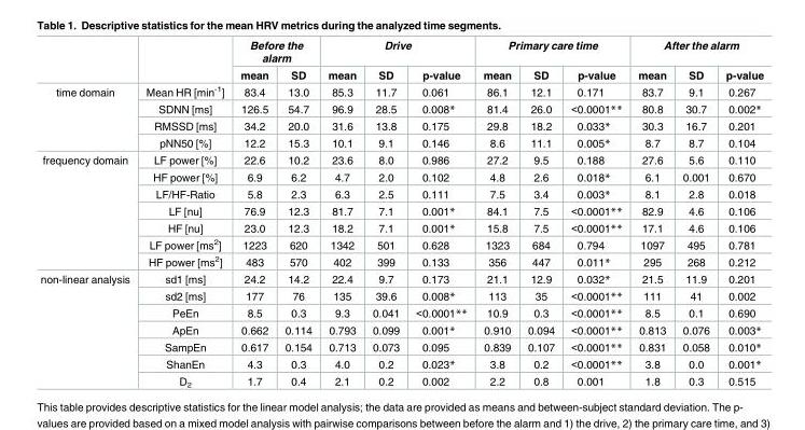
<table><thead><tr><td rowspan="2"></td><td rowspan="2"></td><td colspan="2">Before the alarm</td><td colspan="3">Drive</td><td colspan="3">Primary care time</td><td colspan="3">After the alarm</td></tr><tr><td>mean</td><td>SD</td><td>mean</td><td>SD</td><td>p-value</td><td>mean</td><td>SD</td><td>p-value</td><td>mean</td><td>SD</td><td>p-value</td></tr></thead><tbody><tr><td rowspan="4">time domain</td><td>Mean HR [min<sup>-1</sup>]</td><td>83.4</td><td>13.0</td><td>85.3</td><td>11.7</td><td>0.061</td><td>86.1</td><td>12.1</td><td>0.171</td><td>83.7</td><td>9.1</td><td>0.267</td></tr><tr><td>SDNN [ms]</td><td>126.5</td><td>54.7</td><td>96.9</td><td>28.5</td><td>0.008*</td><td>81.4</td><td>26.0</td><td>&lt;0.0001**</td><td>80.8</td><td>30.7</td><td>0.002*</td></tr><tr><td>RMSSD [ms]</td><td>34.2</td><td>20.0</td><td>31.6</td><td>13.8</td><td>0.175</td><td>29.8</td><td>18.2</td><td>0.033*</td><td>30.3</td><td>16.7</td><td>0.201</td></tr><tr><td>pNN50 [%]</td><td>12.2</td><td>15.3</td><td>10.1</td><td>9.1</td><td>0.146</td><td>8.6</td><td>11.1</td><td>0.005*</td><td>8.7</td><td>8.7</td><td>0.104</td></tr><tr><td rowspan="7">frequency domain</td><td>LF power [%]</td><td>22.6</td><td>10.2</td><td>23.6</td><td>8.0</td><td>0.986</td><td>27.2</td><td>9.5</td><td>0.188</td><td>27.6</td><td>5.6</td><td>0.110</td></tr><tr><td>HF power [%]</td><td>6.9</td><td>6.2</td><td>4.7</td><td>2.0</td><td>0.102</td><td>4.8</td><td>2.6</td><td>0.018*</td><td>6.1</td><td>0.001</td><td>0.670</td></tr><tr><td>LF/HF-Ratio</td><td>5.8</td><td>2.3</td><td>6.3</td><td>2.5</td><td>0.111</td><td>7.5</td><td>3.4</td><td>0.003*</td><td>8.1</td><td>2.8</td><td>0.018</td></tr><tr><td>LF [nu]</td><td>76.9</td><td>12.3</td><td>81.7</td><td>7.1</td><td>0.001*</td><td>84.1</td><td>7.5</td><td>&lt;0.0001**</td><td>82.9</td><td>4.6</td><td>0.106</td></tr><tr><td>HF [nu]</td><td>23.0</td><td>12.3</td><td>18.2</td><td>7.1</td><td>0.001*</td><td>15.8</td><td>7.5</td><td>&lt;0.0001**</td><td>17.1</td><td>4.6</td><td>0.106</td></tr><tr><td>LF power [ms<sup>2</sup>]</td><td>1223</td><td>620</td><td>1342</td><td>501</td><td>0.628</td><td>1323</td><td>684</td><td>0.794</td><td>1097</td><td>495</td><td>0.781</td></tr><tr><td>HF power [ms<sup>2</sup>]</td><td>483</td><td>570</td><td>402</td><td>399</td><td>0.133</td><td>356</td><td>447</td><td>0.011*</td><td>295</td><td>268</td><td>0.212</td></tr><tr><td rowspan="7">non-linear analysis</td><td>sd1 [ms]</td><td>24.2</td><td>14.2</td><td>22.4</td><td>9.7</td><td>0.173</td><td>21.1</td><td>12.9</td><td>0.032*</td><td>21.5</td><td>11.9</td><td>0.201</td></tr><tr><td>sd2 [ms]</td><td>177</td><td>76</td><td>135</td><td>39.6</td><td>0.008*</td><td>113</td><td>35</td><td>&lt;0.0001**</td><td>111</td><td>41</td><td>0.002</td></tr><tr><td>PeEn</td><td>8.5</td><td>0.3</td><td>9.3</td><td>0.041</td><td>&lt;0.0001**</td><td>10.9</td><td>0.3</td><td>&lt;0.0001**</td><td>8.5</td><td>0.1</td><td>0.690</td></tr><tr><td>ApEn</td><td>0.662</td><td>0.114</td><td>0.793</td><td>0.099</td><td>0.001*</td><td>0.910</td><td>0.094</td><td>&lt;0.0001**</td><td>0.813</td><td>0.076</td><td>0.003*</td></tr><tr><td>SampEn</td><td>0.617</td><td>0.154</td><td>0.713</td><td>0.073</td><td>0.095</td><td>0.839</td><td>0.107</td><td>&lt;0.0001**</td><td>0.831</td><td>0.058</td><td>0.010*</td></tr><tr><td>ShanEn</td><td>4.3</td><td>0.3</td><td>4.0</td><td>0.2</td><td>0.023*</td><td>3.8</td><td>0.2</td><td>&lt;0.0001**</td><td>3.8</td><td>0.0</td><td>0.001*</td></tr><tr><td>D<sub>2</sub></td><td>1.7</td><td>0.4</td><td>2.1</td><td>0.2</td><td>0.002</td><td>2.2</td><td>0.8</td><td>0.001</td><td>1.8</td><td>0.3</td><td>0.515</td></tr></tbody></table>